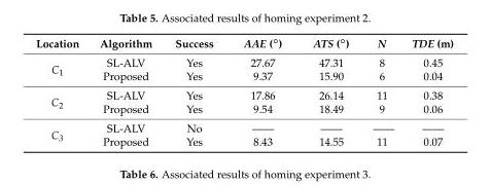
<table><thead><tr><td>Location</td><td>Algorithm</td><td>Success</td><td>AAE (◦)</td><td>ATS (◦)</td><td>N</td><td>TDE (m)</td></tr></thead><tbody><tr><td rowspan="2">C<sub>1</sub></td><td>SL-ALV</td><td>Yes</td><td>27.67</td><td>47.31</td><td>8</td><td>0.45</td></tr><tr><td>Proposed</td><td>Yes</td><td>9.37</td><td>15.90</td><td>6</td><td>0.04</td></tr><tr><td rowspan="2">C<sub>2</sub></td><td>SL-ALV</td><td>Yes</td><td>17.86</td><td>26.14</td><td>11</td><td>0.38</td></tr><tr><td>Proposed</td><td>Yes</td><td>9.54</td><td>18.49</td><td>9</td><td>0.06</td></tr><tr><td rowspan="2">C<sub>3</sub></td><td>SL-ALV</td><td>No</td><td>——</td><td>——</td><td>——</td><td>——</td></tr><tr><td>Proposed</td><td>Yes</td><td>8.43</td><td>14.55</td><td>11</td><td>0.07</td></tr></tbody></table>